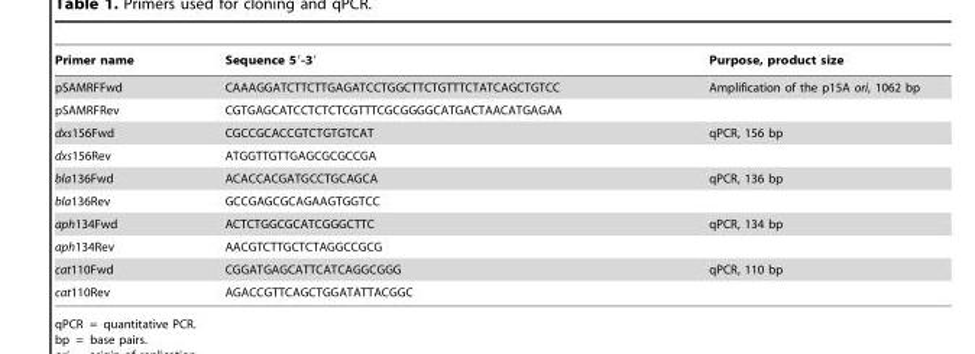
<table><thead><tr><td>Primer name</td><td>Sequence 5′-3′</td><td>Purpose, product size</td></tr></thead><tbody><tr><td>pSAMRFFwd</td><td>CAAAGGATCTTCTTGAGATCCTGGCTTCTGTTTCTATCAGCTGTCC</td><td>Amplification of the p15A ori, 1062 bp</td></tr><tr><td>pSAMRFRev</td><td>CGTGAGCATCCTCTCTCGTTTCGCGGGGCATGACTAACATGAGAA</td><td></td></tr><tr><td>dxs156Fwd</td><td>CGCCGCACCGTCTGTGTCAT</td><td>qPCR, 156 bp</td></tr><tr><td>dxs156Rev</td><td>ATGGTTGTTGAGCGCGCCGA</td><td></td></tr><tr><td>bla136Fwd</td><td>ACACCACGATGCCTGCAGCA</td><td>qPCR, 136 bp</td></tr><tr><td>bla136Rev</td><td>GCCGAGCGCAGAAGTGGTCC</td><td></td></tr><tr><td>aph134Fwd</td><td>ACTCTGGCGCATCGGGCTTC</td><td>qPCR, 134 bp</td></tr><tr><td>aph134Rev</td><td>AACGTCTTGCTCTAGGCCGCG</td><td></td></tr><tr><td>cat110Fwd</td><td>CGGATGAGCATTCATCAGGCGGG</td><td>qPCR, 110 bp</td></tr><tr><td>cat110Rev</td><td>AGACCGTTCAGCTGGATATTACGGC</td><td></td></tr></tbody></table>